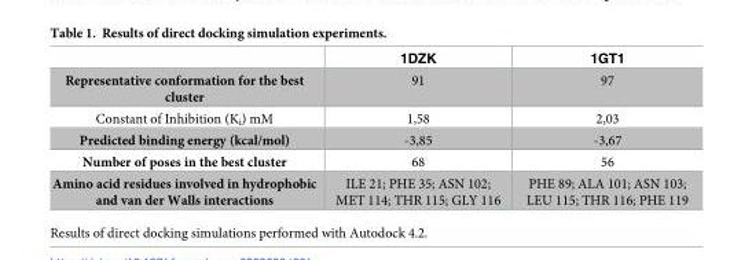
<table><thead><tr><td></td><td>1DZK</td><td>1GT1</td></tr></thead><tbody><tr><td>Representative conformation for the best cluster</td><td>91</td><td>97</td></tr><tr><td>Constant of Inhibition (K<sub>i</sub>) mM</td><td>1,58</td><td>2,03</td></tr><tr><td>Predicted binding energy (kcal/mol)</td><td>-3,85</td><td>-3,67</td></tr><tr><td>Number of poses in the best cluster</td><td>68</td><td>56</td></tr><tr><td>Amino acid residues involved in hydrophobic and van der Walls interactions</td><td>ILE 21; PHE 35; ASN 102; MET 114; THR 115; GLY 116</td><td>PHE 89; ALA 101; ASN 103; LEU 115; THR 116; PHE 119</td></tr></tbody></table>